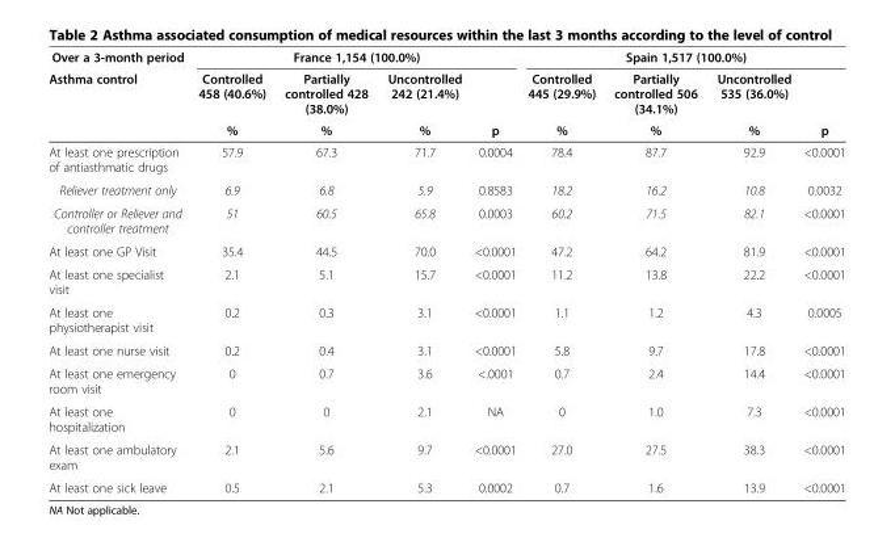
<table><thead><tr><td rowspan="3">Over a 3-month period Asthma control</td><td colspan="4">France 1,154 (100.0%)</td><td colspan="4">Spain 1,517 (100.0%)</td></tr><tr><td rowspan="2">Controlled 458 (40.6%) %</td><td rowspan="2">Partially controlled 428 (38.0%) %</td><td rowspan="2">Uncontrolled 242 (21.4%) %</td><td rowspan="2">p</td><td rowspan="2">Controlled 445 (29.9%) %</td><td rowspan="2">Partially controlled 506 (34.1%) %</td><td rowspan="2">Uncontrolled 535 (36.0%) %</td><td rowspan="2">p</td></tr><tr></tr></thead><tbody><tr><td>At least one prescription of antiasthmatic drugs</td><td>57.9</td><td>67.3</td><td>71.7</td><td>0.0004</td><td>78.4</td><td>87.7</td><td>92.9</td><td>&lt;0.0001</td></tr><tr><td>Reliever treatment only</td><td>6.9</td><td>6.8</td><td>5.9</td><td>0.8583</td><td>18.2</td><td>16.2</td><td>10.8</td><td>0.0032</td></tr><tr><td>Controller or Reliever and controller treatment</td><td>51</td><td>60.5</td><td>65.8</td><td>0.0003</td><td>60.2</td><td>71.5</td><td>82.1</td><td>&lt;0.0001</td></tr><tr><td>At least one GP Visit</td><td>35.4</td><td>44.5</td><td>70.0</td><td>&lt;0.0001</td><td>47.2</td><td>64.2</td><td>81.9</td><td>&lt;0.0001</td></tr><tr><td>At least one specialist visit</td><td>2.1</td><td>5.1</td><td>15.7</td><td>&lt;0.0001</td><td>11.2</td><td>13.8</td><td>22.2</td><td>&lt;0.0001</td></tr><tr><td>At least one physiotherapist visit</td><td>0.2</td><td>0.3</td><td>3.1</td><td>&lt;0.0001</td><td>1.1</td><td>1.2</td><td>4.3</td><td>0.0005</td></tr><tr><td>At least one nurse visit</td><td>0.2</td><td>0.4</td><td>3.1</td><td>&lt;0.0001</td><td>5.8</td><td>9.7</td><td>17.8</td><td>&lt;0.0001</td></tr><tr><td>At least one emergency room visit</td><td>0</td><td>0.7</td><td>3.6</td><td>&lt;.0001</td><td>0.7</td><td>2.4</td><td>14.4</td><td>&lt;0.0001</td></tr><tr><td>At least one hospitalization</td><td>0</td><td>0</td><td>2.1</td><td>NA</td><td>0</td><td>1.0</td><td>7.3</td><td>&lt;0.0001</td></tr><tr><td>At least one ambulatory exam</td><td>2.1</td><td>5.6</td><td>9.7</td><td>&lt;0.0001</td><td>27.0</td><td>27.5</td><td>38.3</td><td>&lt;0.0001</td></tr><tr><td>At least one sick leave</td><td>0.5</td><td>2.1</td><td>5.3</td><td>0.0002</td><td>0.7</td><td>1.6</td><td>13.9</td><td>&lt;0.0001</td></tr></tbody></table>